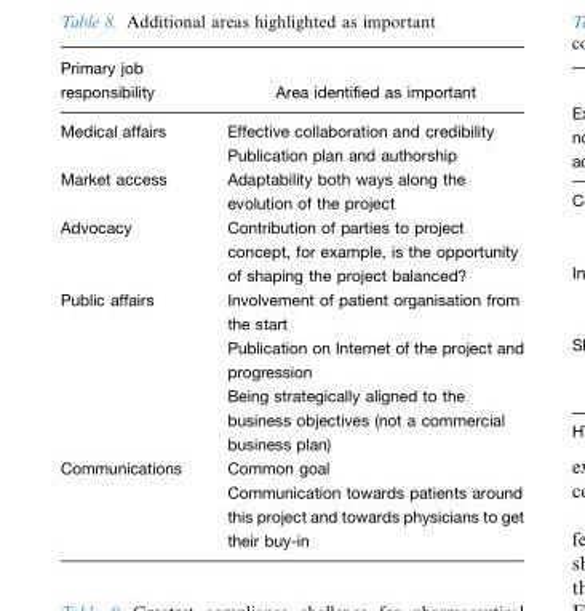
<table><thead><tr><td>Primary job responsibility</td><td>Area identified as important</td></tr></thead><tbody><tr><td>Medical affairs</td><td>Effective collaboration and credibility Publication plan and authorship</td></tr><tr><td>Market access</td><td>Adaptability both ways along the evolution of the project</td></tr><tr><td>Advocacy</td><td>Contribution of parties to project concept, for example, is the opportunity of shaping the project balanced?</td></tr><tr><td>Public affairs</td><td>Involvement of patient organisation from the start Publication on Internet of the project and progression Being strategically aligned to the business objectives (not a commercial business plan)</td></tr><tr><td>Communications</td><td>Common goal Communication towards patients around this project and towards physicians to get their buy-in</td></tr></tbody></table>